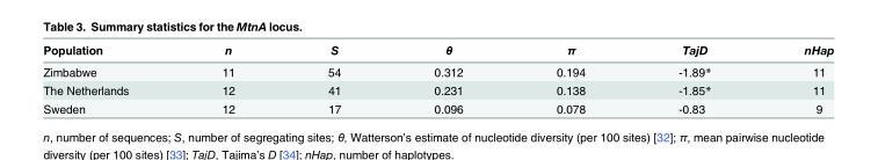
<table><thead><tr><td>Population</td><td>n</td><td>S</td><td>θ</td><td>π</td><td>TajD</td><td>nHap</td></tr></thead><tbody><tr><td>Zimbabwe</td><td>11</td><td>54</td><td>0.312</td><td>0.194</td><td>-1.89*</td><td>11</td></tr><tr><td>The Netherlands</td><td>12</td><td>41</td><td>0.231</td><td>0.138</td><td>-1.85*</td><td>11</td></tr><tr><td>Sweden</td><td>12</td><td>17</td><td>0.096</td><td>0.078</td><td>-0.83</td><td>9</td></tr></tbody></table>